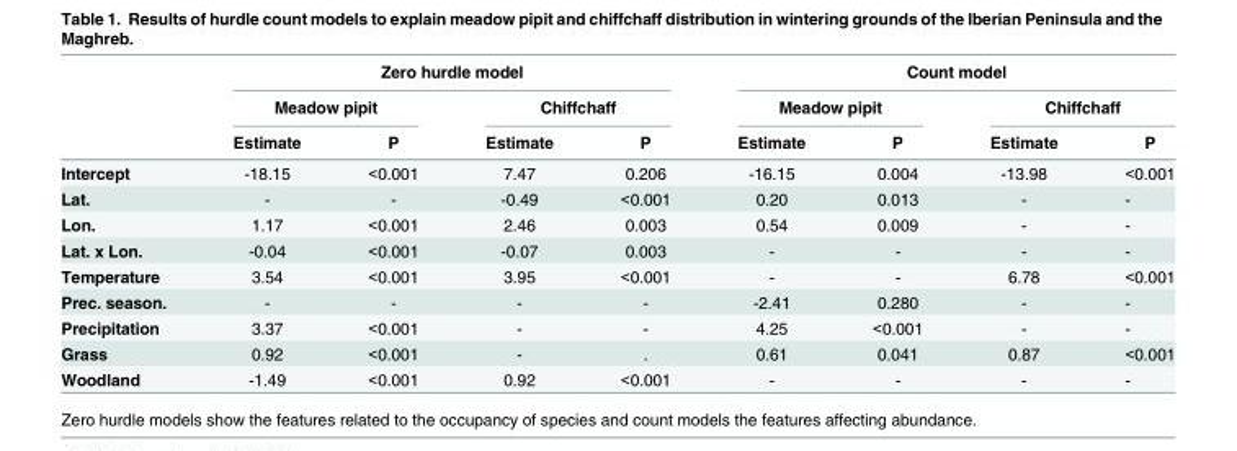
<table><thead><tr><td rowspan="3"></td><td colspan="4">Zero hurdle model</td><td colspan="4">Count model</td></tr><tr><td colspan="2">Meadow pipit</td><td colspan="2">Chiffchaff</td><td colspan="2">Meadow pipit</td><td colspan="2">Chiffchaff</td></tr><tr><td>Estimate</td><td>P</td><td>Estimate</td><td>P</td><td>Estimate</td><td>P</td><td>Estimate</td><td>P</td></tr></thead><tbody><tr><td>Intercept</td><td>-18.15</td><td>&lt;0.001</td><td>7.47</td><td>0.206</td><td>-16.15</td><td>0.004</td><td>-13.98</td><td>&lt;0.001</td></tr><tr><td>Lat.</td><td>-</td><td>-</td><td>-0.49</td><td>&lt;0.001</td><td>0.20</td><td>0.013</td><td>-</td><td>-</td></tr><tr><td>Lon.</td><td>1.17</td><td>&lt;0.001</td><td>2.46</td><td>0.003</td><td>0.54</td><td>0.009</td><td>-</td><td>-</td></tr><tr><td>Lat. x Lon.</td><td>-0.04</td><td>&lt;0.001</td><td>-0.07</td><td>0.003</td><td>-</td><td>-</td><td>-</td><td>-</td></tr><tr><td>Temperature</td><td>3.54</td><td>&lt;0.001</td><td>3.95</td><td>&lt;0.001</td><td>-</td><td>-</td><td>6.78</td><td>&lt;0.001</td></tr><tr><td>Prec. season.</td><td>-</td><td>-</td><td>-</td><td>-</td><td>-2.41</td><td>0.280</td><td>-</td><td>-</td></tr><tr><td>Precipitation</td><td>3.37</td><td>&lt;0.001</td><td>-</td><td>-</td><td>4.25</td><td>&lt;0.001</td><td>-</td><td>-</td></tr><tr><td>Grass</td><td>0.92</td><td>&lt;0.001</td><td>-</td><td>.</td><td>0.61</td><td>0.041</td><td>0.87</td><td>&lt;0.001</td></tr><tr><td>Woodland</td><td>-1.49</td><td>&lt;0.001</td><td>0.92</td><td>&lt;0.001</td><td>-</td><td>-</td><td>-</td><td>-</td></tr></tbody></table>